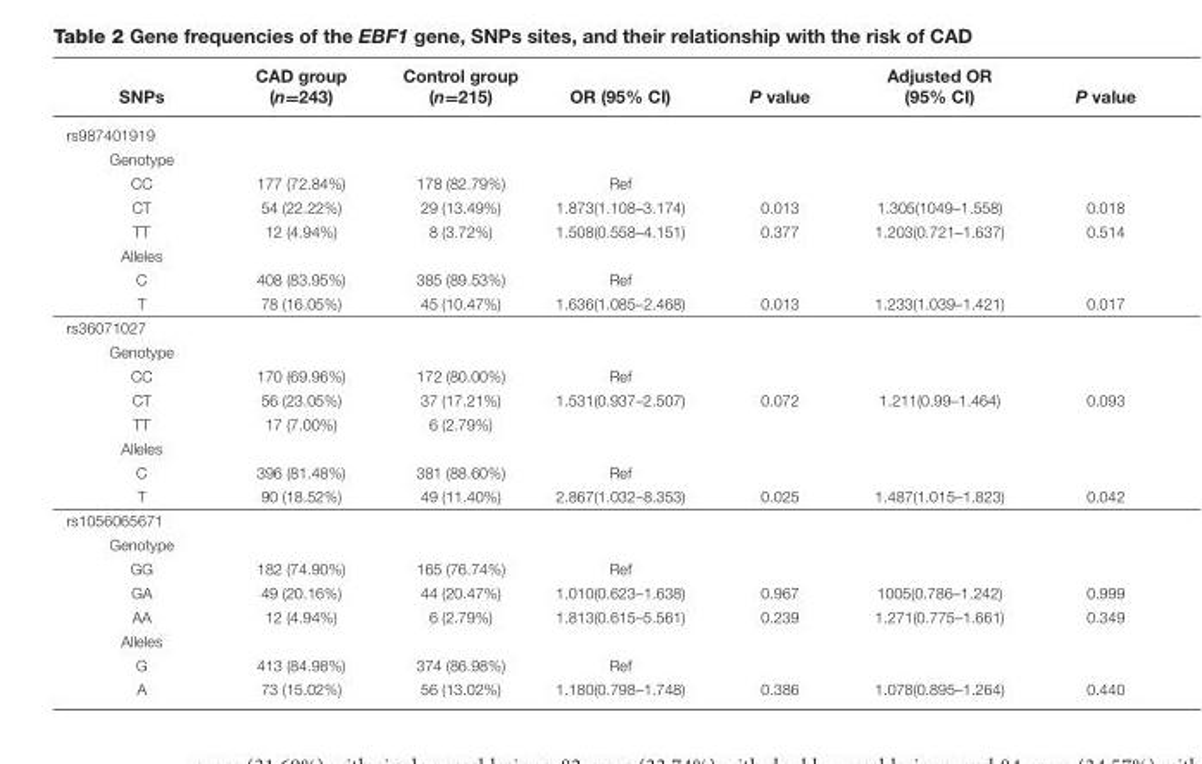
<table><thead><tr><td>SNPs</td><td>CAD group (n=243)</td><td>Control group (n=215)</td><td>OR (95% CI)</td><td>P value</td><td>Adjusted OR (95% CI)</td><td>P value</td></tr></thead><tbody><tr><td colspan="7">rs987401919</td></tr><tr><td colspan="7">Genotype</td></tr><tr><td>CC</td><td>177 (72.84%)</td><td>178 (82.79%)</td><td>Ref</td><td></td><td></td><td></td></tr><tr><td>CT</td><td>54 (22.22%)</td><td>29 (13.49%)</td><td>1.873(1.108–3.174)</td><td>0.013</td><td>1.305(1049–1.558)</td><td>0.018</td></tr><tr><td>TT</td><td>12 (4.94%)</td><td>8 (3.72%)</td><td>1.508(0.558–4.151)</td><td>0.377</td><td>1.203(0.721–1.637)</td><td>0.514</td></tr><tr><td colspan="7">Alleles</td></tr><tr><td>C</td><td>408 (83.95%)</td><td>385 (89.53%)</td><td>Ref</td><td></td><td></td><td></td></tr><tr><td>T</td><td>78 (16.05%)</td><td>45 (10.47%)</td><td>1.636(1.085–2.468)</td><td>0.013</td><td>1.233(1.039–1.421)</td><td>0.017</td></tr><tr><td colspan="7">rs36071027</td></tr><tr><td colspan="7">Genotype</td></tr><tr><td>CC</td><td>170 (69.96%)</td><td>172 (80.00%)</td><td>Ref</td><td></td><td></td><td></td></tr><tr><td>CT</td><td>56 (23.05%)</td><td>37 (17.21%)</td><td>1.531(0.937–2.507)</td><td>0.072</td><td>1.211(0.99–1.464)</td><td>0.093</td></tr><tr><td>TT</td><td>17 (7.00%)</td><td>6 (2.79%)</td><td></td><td></td><td></td><td></td></tr><tr><td colspan="7">Alleles</td></tr><tr><td>C</td><td>396 (81.48%)</td><td>381 (88.60%)</td><td>Ref</td><td></td><td></td><td></td></tr><tr><td>T</td><td>90 (18.52%)</td><td>49 (11.40%)</td><td>2.867(1.032–8.353)</td><td>0.025</td><td>1.487(1.015–1.823)</td><td>0.042</td></tr><tr><td colspan="7">rs1056065671</td></tr><tr><td colspan="7">Genotype</td></tr><tr><td>GG</td><td>182 (74.90%)</td><td>165 (76.74%)</td><td>Ref</td><td></td><td></td><td></td></tr><tr><td>GA</td><td>49 (20.16%)</td><td>44 (20.47%)</td><td>1.010(0.623–1.638)</td><td>0.967</td><td>1005(0.786–1.242)</td><td>0.999</td></tr><tr><td>AA</td><td>12 (4.94%)</td><td>6 (2.79%)</td><td>1.813(0.615–5.561)</td><td>0.239</td><td>1.271(0.775–1.661)</td><td>0.349</td></tr><tr><td colspan="7">Alleles</td></tr><tr><td>G</td><td>413 (84.98%)</td><td>374 (86.98%)</td><td>Ref</td><td></td><td></td><td></td></tr><tr><td>A</td><td>73 (15.02%)</td><td>56 (13.02%)</td><td>1.180(0.798–1.748)</td><td>0.386</td><td>1.078(0.895–1.264)</td><td>0.440</td></tr></tbody></table>